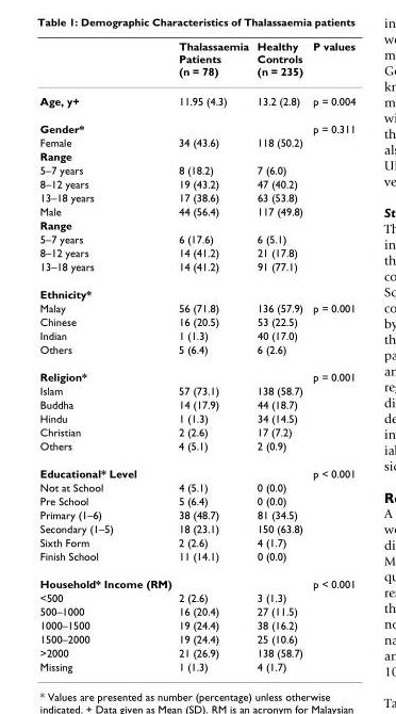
<table><thead><tr><td></td><td>Thalassaemia Patients (n = 78)</td><td>Healthy Controls (n = 235)</td><td>P values</td></tr></thead><tbody><tr><td>Age, y+</td><td>11.95 (4.3)</td><td>13.2 (2.8)</td><td>p = 0.004</td></tr><tr><td>Gender*</td><td></td><td></td><td>p = 0.311</td></tr><tr><td>Female</td><td>34 (43.6)</td><td>118 (50.2)</td><td></td></tr><tr><td colspan="4">Range</td></tr><tr><td>5–7 years</td><td>8 (18.2)</td><td>7 (6.0)</td><td></td></tr><tr><td>8–12 years</td><td>19 (43.2)</td><td>47 (40.2)</td><td></td></tr><tr><td>13–18 years</td><td>17 (38.6)</td><td>63 (53.8)</td><td></td></tr><tr><td>Male</td><td>44 (56.4)</td><td>117 (49.8)</td><td></td></tr><tr><td colspan="4">Range</td></tr><tr><td>5–7 years</td><td>6 (17.6)</td><td>6 (5.1)</td><td></td></tr><tr><td>8–12 years</td><td>14 (41.2)</td><td>21 (17.8)</td><td></td></tr><tr><td>13–18 years</td><td>14 (41.2)</td><td>91 (77.1)</td><td></td></tr><tr><td colspan="4">Ethnicity*</td></tr><tr><td>Malay</td><td>56 (71.8)</td><td>136 (57.9)</td><td>p = 0.001</td></tr><tr><td>Chinese</td><td>16 (20.5)</td><td>53 (22.5)</td><td></td></tr><tr><td>Indian</td><td>1 (1.3)</td><td>40 (17.0)</td><td></td></tr><tr><td>Others</td><td>5 (6.4)</td><td>6 (2.6)</td><td></td></tr><tr><td>Religion*</td><td></td><td></td><td>p = 0.001</td></tr><tr><td>Islam</td><td>57 (73.1)</td><td>138 (58.7)</td><td></td></tr><tr><td>Buddha</td><td>14 (17.9)</td><td>44 (18.7)</td><td></td></tr><tr><td>Hindu</td><td>1 (1.3)</td><td>34 (14.5)</td><td></td></tr><tr><td>Christian</td><td>2 (2.6)</td><td>17 (7.2)</td><td></td></tr><tr><td>Others</td><td>4 (5.1)</td><td>2 (0.9)</td><td></td></tr><tr><td>Educational* Level</td><td></td><td></td><td>p &lt; 0.001</td></tr><tr><td>Not at School</td><td>4 (5.1)</td><td>0 (0.0)</td><td></td></tr><tr><td>Pre School</td><td>5 (6.4)</td><td>0 (0.0)</td><td></td></tr><tr><td>Primary (1–6)</td><td>38 (48.7)</td><td>81 (34.5)</td><td></td></tr><tr><td>Secondary (1–5)</td><td>18 (23.1)</td><td>150 (63.8)</td><td></td></tr><tr><td>Sixth Form</td><td>2 (2.6)</td><td>4 (1.7)</td><td></td></tr><tr><td>Finish School</td><td>11 (14.1)</td><td>0 (0.0)</td><td></td></tr><tr><td>Household* Income (RM)</td><td></td><td></td><td>p &lt; 0.001</td></tr><tr><td>&lt;500</td><td>2 (2.6)</td><td>3 (1.3)</td><td></td></tr><tr><td>500–1000</td><td>16 (20.4)</td><td>27 (11.5)</td><td></td></tr><tr><td>1000–1500</td><td>19 (24.4)</td><td>38 (16.2)</td><td></td></tr><tr><td>1500–2000</td><td>19 (24.4)</td><td>25 (10.6)</td><td></td></tr><tr><td>&gt;2000</td><td>21 (26.9)</td><td>138 (58.7)</td><td></td></tr><tr><td>Missing</td><td>1 (1.3)</td><td>4 (1.7)</td><td></td></tr></tbody></table>